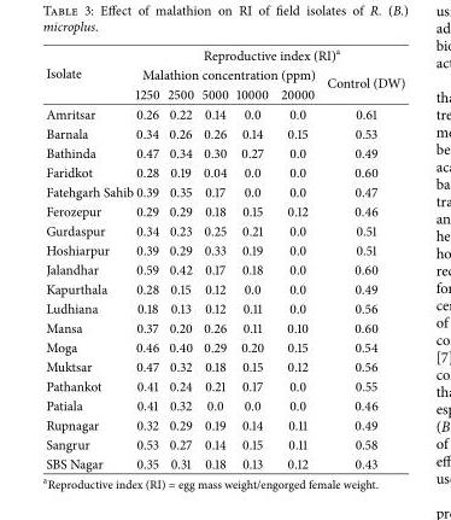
<table><thead><tr><td rowspan="3">Isolate</td><td colspan="6">Reproductive index (RI)<sup>a</sup></td></tr><tr><td colspan="5">Malathion concentration (ppm)</td><td rowspan="2">Control (DW)</td></tr><tr><td>1250</td><td>2500</td><td>5000</td><td>10000</td><td>20000</td></tr></thead><tbody><tr><td>Amritsar</td><td>0.26</td><td>0.22</td><td>0.14</td><td>0.0</td><td>0.0</td><td>0.61</td></tr><tr><td>Barnala</td><td>0.34</td><td>0.26</td><td>0.26</td><td>0.14</td><td>0.15</td><td>0.53</td></tr><tr><td>Bathinda</td><td>0.47</td><td>0.34</td><td>0.30</td><td>0.27</td><td>0.0</td><td>0.49</td></tr><tr><td>Faridkot</td><td>0.28</td><td>0.19</td><td>0.04</td><td>0.0</td><td>0.0</td><td>0.60</td></tr><tr><td>Fatehgarh Sahib</td><td>0.39</td><td>0.35</td><td>0.17</td><td>0.0</td><td>0.0</td><td>0.47</td></tr><tr><td>Ferozepur</td><td>0.29</td><td>0.29</td><td>0.18</td><td>0.15</td><td>0.12</td><td>0.46</td></tr><tr><td>Gurdaspur</td><td>0.34</td><td>0.23</td><td>0.25</td><td>0.21</td><td>0.0</td><td>0.51</td></tr><tr><td>Hoshiarpur</td><td>0.39</td><td>0.29</td><td>0.33</td><td>0.19</td><td>0.0</td><td>0.51</td></tr><tr><td>Jalandhar</td><td>0.59</td><td>0.42</td><td>0.17</td><td>0.18</td><td>0.0</td><td>0.60</td></tr><tr><td>Kapurthala</td><td>0.28</td><td>0.15</td><td>0.12</td><td>0.0</td><td>0.0</td><td>0.49</td></tr><tr><td>Ludhiana</td><td>0.18</td><td>0.13</td><td>0.12</td><td>0.11</td><td>0.0</td><td>0.56</td></tr><tr><td>Mansa</td><td>0.37</td><td>0.20</td><td>0.26</td><td>0.11</td><td>0.10</td><td>0.60</td></tr><tr><td>Moga</td><td>0.46</td><td>0.40</td><td>0.29</td><td>0.20</td><td>0.15</td><td>0.54</td></tr><tr><td>Muktsar</td><td>0.47</td><td>0.32</td><td>0.18</td><td>0.15</td><td>0.12</td><td>0.56</td></tr><tr><td>Pathankot</td><td>0.41</td><td>0.24</td><td>0.21</td><td>0.17</td><td>0.0</td><td>0.55</td></tr><tr><td>Patiala</td><td>0.41</td><td>0.32</td><td>0.0</td><td>0.0</td><td>0.0</td><td>0.46</td></tr><tr><td>Rupnagar</td><td>0.32</td><td>0.29</td><td>0.19</td><td>0.14</td><td>0.11</td><td>0.49</td></tr><tr><td>Sangrur</td><td>0.53</td><td>0.27</td><td>0.14</td><td>0.15</td><td>0.11</td><td>0.58</td></tr><tr><td>SBS Nagar</td><td>0.35</td><td>0.31</td><td>0.18</td><td>0.13</td><td>0.12</td><td>0.43</td></tr></tbody></table>